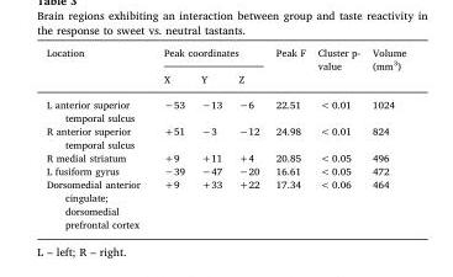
<table><thead><tr><td rowspan="2">Location</td><td colspan="3">Peak coordinates</td><td rowspan="2">Peak F</td><td rowspan="2">Cluster p- value</td><td rowspan="2">Volume (mm<sup>3</sup>)</td></tr><tr><td>X</td><td>Y</td><td>Z</td></tr></thead><tbody><tr><td>L anterior superior temporal sulcus</td><td>−53</td><td>−13</td><td>−6</td><td>22.51</td><td>&lt; 0.01</td><td>1024</td></tr><tr><td>R anterior superior temporal sulcus</td><td>+51</td><td>−3</td><td>−12</td><td>24.98</td><td>&lt; 0.01</td><td>824</td></tr><tr><td>R medial striatum</td><td>+9</td><td>+11</td><td>+4</td><td>20.85</td><td>&lt; 0.05</td><td>496</td></tr><tr><td>L fusiform gyrus</td><td>−39</td><td>−47</td><td>−20</td><td>16.61</td><td>&lt; 0.05</td><td>472</td></tr><tr><td>Dorsomedial anterior cingulate; dorsomedial prefrontal cortex</td><td>+9</td><td>+33</td><td>+22</td><td>17.34</td><td>&lt; 0.06</td><td>464</td></tr></tbody></table>